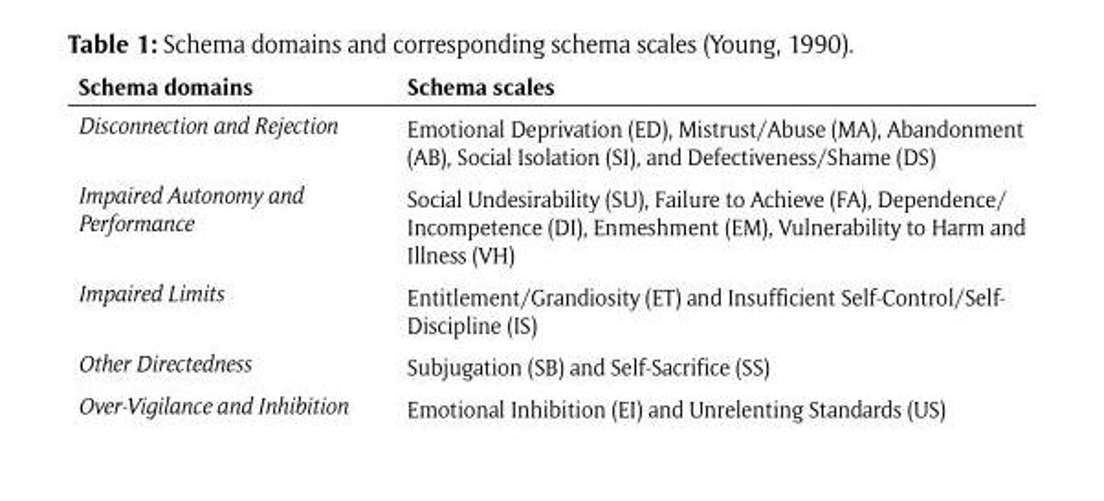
<table><thead><tr><td>Schema domains</td><td>Schema scales</td></tr></thead><tbody><tr><td>Disconnection and Rejection</td><td>Emotional Deprivation (ED), Mistrust/Abuse (MA), Abandonment (AB), Social Isolation (SI), and Defectiveness/Shame (DS)</td></tr><tr><td>Impaired Autonomy and Performance</td><td>Social Undesirability (SU), Failure to Achieve (FA), Dependence/ Incompetence (DI), Enmeshment (EM), Vulnerability to Harm and Illness (VH)</td></tr><tr><td>Impaired Limits</td><td>Entitlement/Grandiosity (ET) and Insufficient Self-Control/Self- Discipline (IS)</td></tr><tr><td>Other Directedness</td><td>Subjugation (SB) and Self-Sacrifice (SS)</td></tr><tr><td>Over-Vigilance and Inhibition</td><td>Emotional Inhibition (EI) and Unrelenting Standards (US)</td></tr></tbody></table>